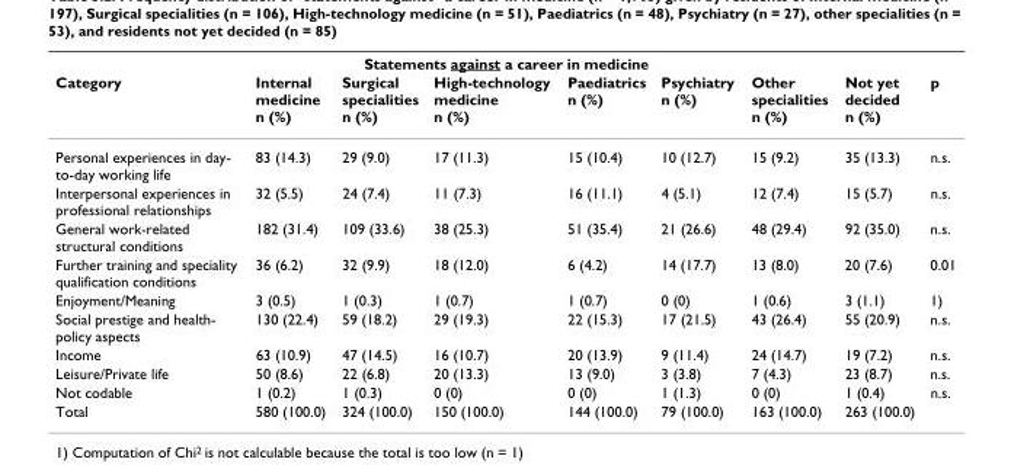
<table><thead><tr><td colspan="9">Statements against a career in medicine</td></tr><tr><td>Category</td><td>Internal medicine n (%)</td><td>Surgical specialities n (%)</td><td>High-technology medicine n (%)</td><td>Paediatrics n (%)</td><td>Psychiatry n (%)</td><td>Other specialities n (%)</td><td>Not yet decided n (%)</td><td>p</td></tr></thead><tbody><tr><td>Personal experiences in day- to-day working life</td><td>83 (14.3)</td><td>29 (9.0)</td><td>17 (11.3)</td><td>15 (10.4)</td><td>10 (12.7)</td><td>15 (9.2)</td><td>35 (13.3)</td><td>n.s.</td></tr><tr><td>Interpersonal experiences in professional relationships</td><td>32 (5.5)</td><td>24 (7.4)</td><td>11 (7.3)</td><td>16 (11.1)</td><td>4 (5.1)</td><td>12 (7.4)</td><td>15 (5.7)</td><td>n.s.</td></tr><tr><td>General work-related structural conditions</td><td>182 (31.4)</td><td>109 (33.6)</td><td>38 (25.3)</td><td>51 (35.4)</td><td>21 (26.6)</td><td>48 (29.4)</td><td>92 (35.0)</td><td>n.s.</td></tr><tr><td>Further training and speciality qualification conditions</td><td>36 (6.2)</td><td>32 (9.9)</td><td>18 (12.0)</td><td>6 (4.2)</td><td>14 (17.7)</td><td>13 (8.0)</td><td>20 (7.6)</td><td>0.01</td></tr><tr><td>Enjoyment/Meaning</td><td>3 (0.5)</td><td>1 (0.3)</td><td>1 (0.7)</td><td>1 (0.7)</td><td>0 (0)</td><td>1 (0.6)</td><td>3 (1.1)</td><td>1)</td></tr><tr><td>Social prestige and health- policy aspects</td><td>130 (22.4)</td><td>59 (18.2)</td><td>29 (19.3)</td><td>22 (15.3)</td><td>17 (21.5)</td><td>43 (26.4)</td><td>55 (20.9)</td><td>n.s.</td></tr><tr><td>Income</td><td>63 (10.9)</td><td>47 (14.5)</td><td>16 (10.7)</td><td>20 (13.9)</td><td>9 (11.4)</td><td>24 (14.7)</td><td>19 (7.2)</td><td>n.s.</td></tr><tr><td>Leisure/Private life</td><td>50 (8.6)</td><td>22 (6.8)</td><td>20 (13.3)</td><td>13 (9.0)</td><td>3 (3.8)</td><td>7 (4.3)</td><td>23 (8.7)</td><td>n.s.</td></tr><tr><td>Not codable</td><td>1 (0.2)</td><td>1 (0.3)</td><td>0 (0)</td><td>0 (0)</td><td>1 (1.3)</td><td>0 (0)</td><td>1 (0.4)</td><td>n.s.</td></tr><tr><td>Total</td><td>580 (100.0)</td><td>324 (100.0)</td><td>150 (100.0)</td><td>144 (100.0)</td><td>79 (100.0)</td><td>163 (100.0)</td><td>263 (100.0)</td><td></td></tr></tbody></table>